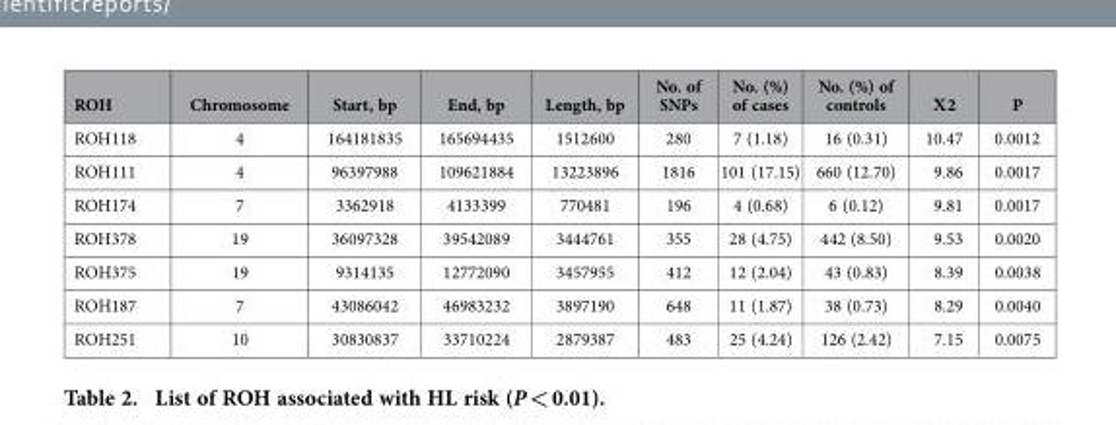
<table><thead><tr><td>ROH</td><td>Chromosome</td><td>Start, bp</td><td>End, bp</td><td>Length, bp</td><td>No. of SNPs</td><td>No. (%) of cases</td><td>No. (%) of controls</td><td>Χ2</td><td>P</td></tr></thead><tbody><tr><td>ROH118</td><td>4</td><td>164181835</td><td>165694435</td><td>1512600</td><td>280</td><td>7 (1.18)</td><td>16 (0.31)</td><td>10.47</td><td>0.0012</td></tr><tr><td>ROH111</td><td>4</td><td>96397988</td><td>109621884</td><td>13223896</td><td>1816</td><td>101 (17.15)</td><td>660 (12.70)</td><td>9.86</td><td>0.0017</td></tr><tr><td>ROH174</td><td>7</td><td>3362918</td><td>4133399</td><td>770481</td><td>196</td><td>4 (0.68)</td><td>6 (0.12)</td><td>9.81</td><td>0.0017</td></tr><tr><td>ROH378</td><td>19</td><td>36097328</td><td>39542089</td><td>3444761</td><td>355</td><td>28 (4.75)</td><td>442 (8.50)</td><td>9.53</td><td>0.0020</td></tr><tr><td>ROH375</td><td>19</td><td>9314135</td><td>12772090</td><td>3457955</td><td>412</td><td>12 (2.04)</td><td>43 (0.83)</td><td>8.39</td><td>0.0038</td></tr><tr><td>ROH187</td><td>7</td><td>43086042</td><td>46983232</td><td>3897190</td><td>648</td><td>11 (1.87)</td><td>38 (0.73)</td><td>8.29</td><td>0.0040</td></tr><tr><td>ROH251</td><td>10</td><td>30830837</td><td>33710224</td><td>2879387</td><td>483</td><td>25 (4.24)</td><td>126 (2.42)</td><td>7.15</td><td>0.0075</td></tr></tbody></table>